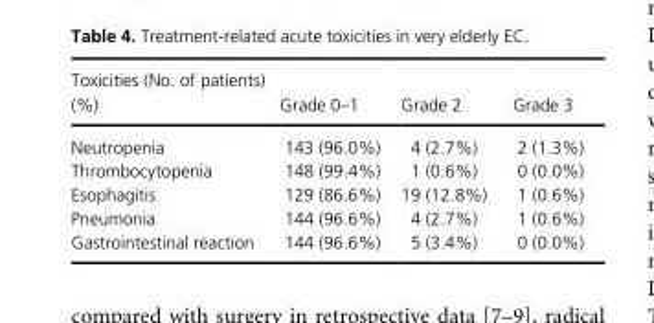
<table><thead><tr><td>Toxicities (No. of patients) (%)</td><td>Grade 0–1</td><td>Grade 2</td><td>Grade 3</td></tr></thead><tbody><tr><td>Neutropenia</td><td>143 (96.0%)</td><td>4 (2.7%)</td><td>2 (1.3%)</td></tr><tr><td>Thrombocytopenia</td><td>148 (99.4%)</td><td>1 (0.6%)</td><td>0 (0.0%)</td></tr><tr><td>Esophagitis</td><td>129 (86.6%)</td><td>19 (12.8%)</td><td>1 (0.6%)</td></tr><tr><td>Pneumonia</td><td>144 (96.6%)</td><td>4 (2.7%)</td><td>1 (0.6%)</td></tr><tr><td>Gastrointestinal reaction</td><td>144 (96.6%)</td><td>5 (3.4%)</td><td>0 (0.0%)</td></tr></tbody></table>